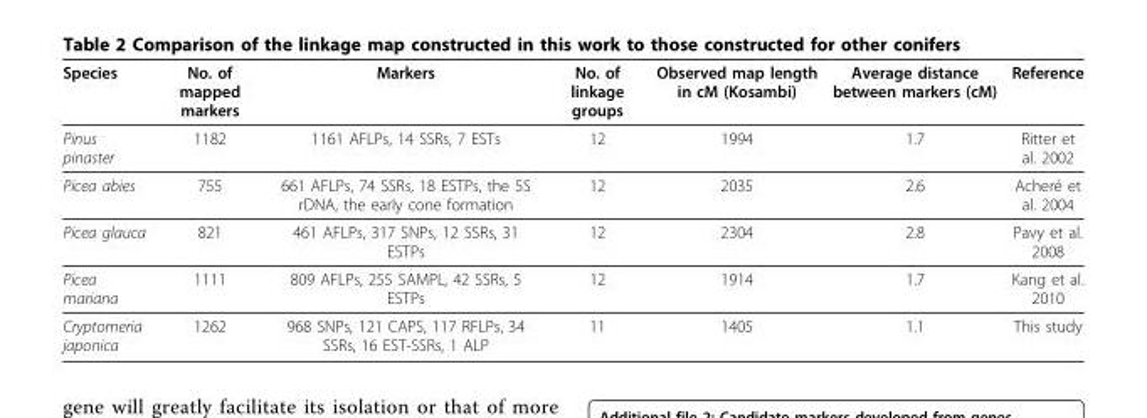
<table><thead><tr><td>Species</td><td>No. of mapped markers</td><td>Markers</td><td>No. of linkage groups</td><td>Observed map length in cM (Kosambi)</td><td>Average distance between markers (cM)</td><td>Reference</td></tr></thead><tbody><tr><td>Pinus pinaster</td><td>1182</td><td>1161 AFLPs, 14 SSRs, 7 ESTs</td><td>12</td><td>1994</td><td>1.7</td><td>Ritter et al. 2002</td></tr><tr><td>Picea abies</td><td>755</td><td>661 AFLPs, 74 SSRs, 18 ESTPs, the 5S rDNA, the early cone formation</td><td>12</td><td>2035</td><td>2.6</td><td>Acheré et al. 2004</td></tr><tr><td>Picea glauca</td><td>821</td><td>461 AFLPs, 317 SNPs, 12 SSRs, 31 ESTPs</td><td>12</td><td>2304</td><td>2.8</td><td>Pavy et al. 2008</td></tr><tr><td>Picea mariana</td><td>1111</td><td>809 AFLPs, 255 SAMPL, 42 SSRs, 5 ESTPs</td><td>12</td><td>1914</td><td>1.7</td><td>Kang et al. 2010</td></tr><tr><td>Cryptomeria japonica</td><td>1262</td><td>968 SNPs, 121 CAPS, 117 RFLPs, 34 SSRs, 16 EST-SSRs, 1 ALP</td><td>11</td><td>1405</td><td>1.1</td><td>This study</td></tr></tbody></table>